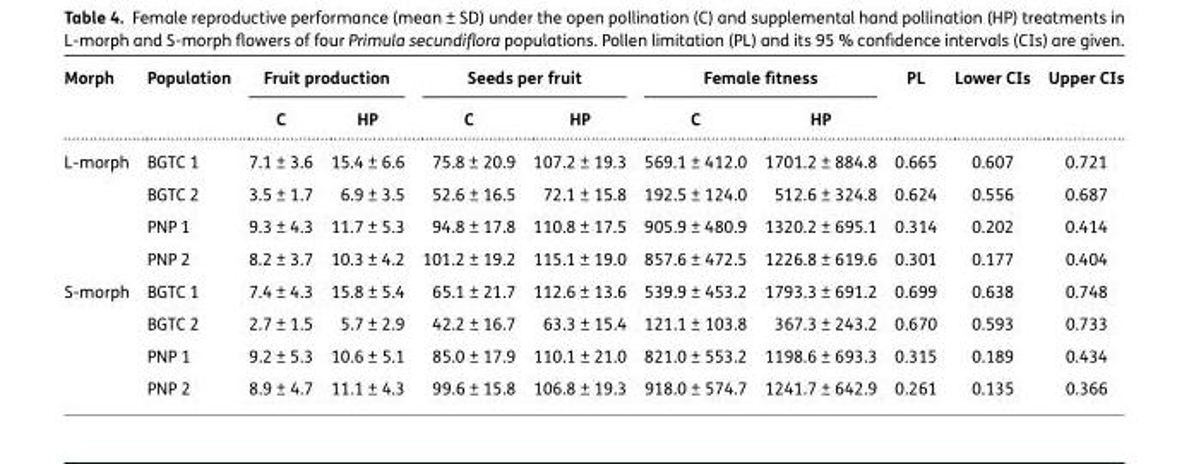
<table><thead><tr><td rowspan="2">Morph</td><td rowspan="2">Population</td><td colspan="2">Fruit production</td><td colspan="2">Seeds per fruit</td><td colspan="2">Female fitness</td><td rowspan="2">PL</td><td rowspan="2">Lower CIs</td><td rowspan="2">Upper CIs</td></tr><tr><td>C</td><td>HP</td><td>C</td><td>HP</td><td>C</td><td>HP</td></tr></thead><tbody><tr><td rowspan="4">L-morph</td><td>BGTC 1</td><td>7.1 ± 3.6</td><td>15.4 ± 6.6</td><td>75.8 ± 20.9</td><td>107.2 ± 19.3</td><td>569.1 ± 412.0</td><td>1701.2 ± 884.8</td><td>0.665</td><td>0.607</td><td>0.721</td></tr><tr><td>BGTC 2</td><td>3.5 ± 1.7</td><td>6.9 ± 3.5</td><td>52.6 ± 16.5</td><td>72.1 ± 15.8</td><td>192.5 ± 124.0</td><td>512.6 ± 324.8</td><td>0.624</td><td>0.556</td><td>0.687</td></tr><tr><td>PNP 1</td><td>9.3 ± 4.3</td><td>11.7 ± 5.3</td><td>94.8 ± 17.8</td><td>110.8 ± 17.5</td><td>905.9 ± 480.9</td><td>1320.2 ± 695.1</td><td>0.314</td><td>0.202</td><td>0.414</td></tr><tr><td>PNP 2</td><td>8.2 ± 3.7</td><td>10.3 ± 4.2</td><td>101.2 ± 19.2</td><td>115.1 ± 19.0</td><td>857.6 ± 472.5</td><td>1226.8 ± 619.6</td><td>0.301</td><td>0.177</td><td>0.404</td></tr><tr><td rowspan="4">S-morph</td><td>BGTC 1</td><td>7.4 ± 4.3</td><td>15.8 ± 5.4</td><td>65.1 ± 21.7</td><td>112.6 ± 13.6</td><td>539.9 ± 453.2</td><td>1793.3 ± 691.2</td><td>0.699</td><td>0.638</td><td>0.748</td></tr><tr><td>BGTC 2</td><td>2.7 ± 1.5</td><td>5.7 ± 2.9</td><td>42.2 ± 16.7</td><td>63.3 ± 15.4</td><td>121.1 ± 103.8</td><td>367.3 ± 243.2</td><td>0.670</td><td>0.593</td><td>0.733</td></tr><tr><td>PNP 1</td><td>9.2 ± 5.3</td><td>10.6 ± 5.1</td><td>85.0 ± 17.9</td><td>110.1 ± 21.0</td><td>821.0 ± 553.2</td><td>1198.6 ± 693.3</td><td>0.315</td><td>0.189</td><td>0.434</td></tr><tr><td>PNP 2</td><td>8.9 ± 4.7</td><td>11.1 ± 4.3</td><td>99.6 ± 15.8</td><td>106.8 ± 19.3</td><td>918.0 ± 574.7</td><td>1241.7 ± 642.9</td><td>0.261</td><td>0.135</td><td>0.366</td></tr></tbody></table>